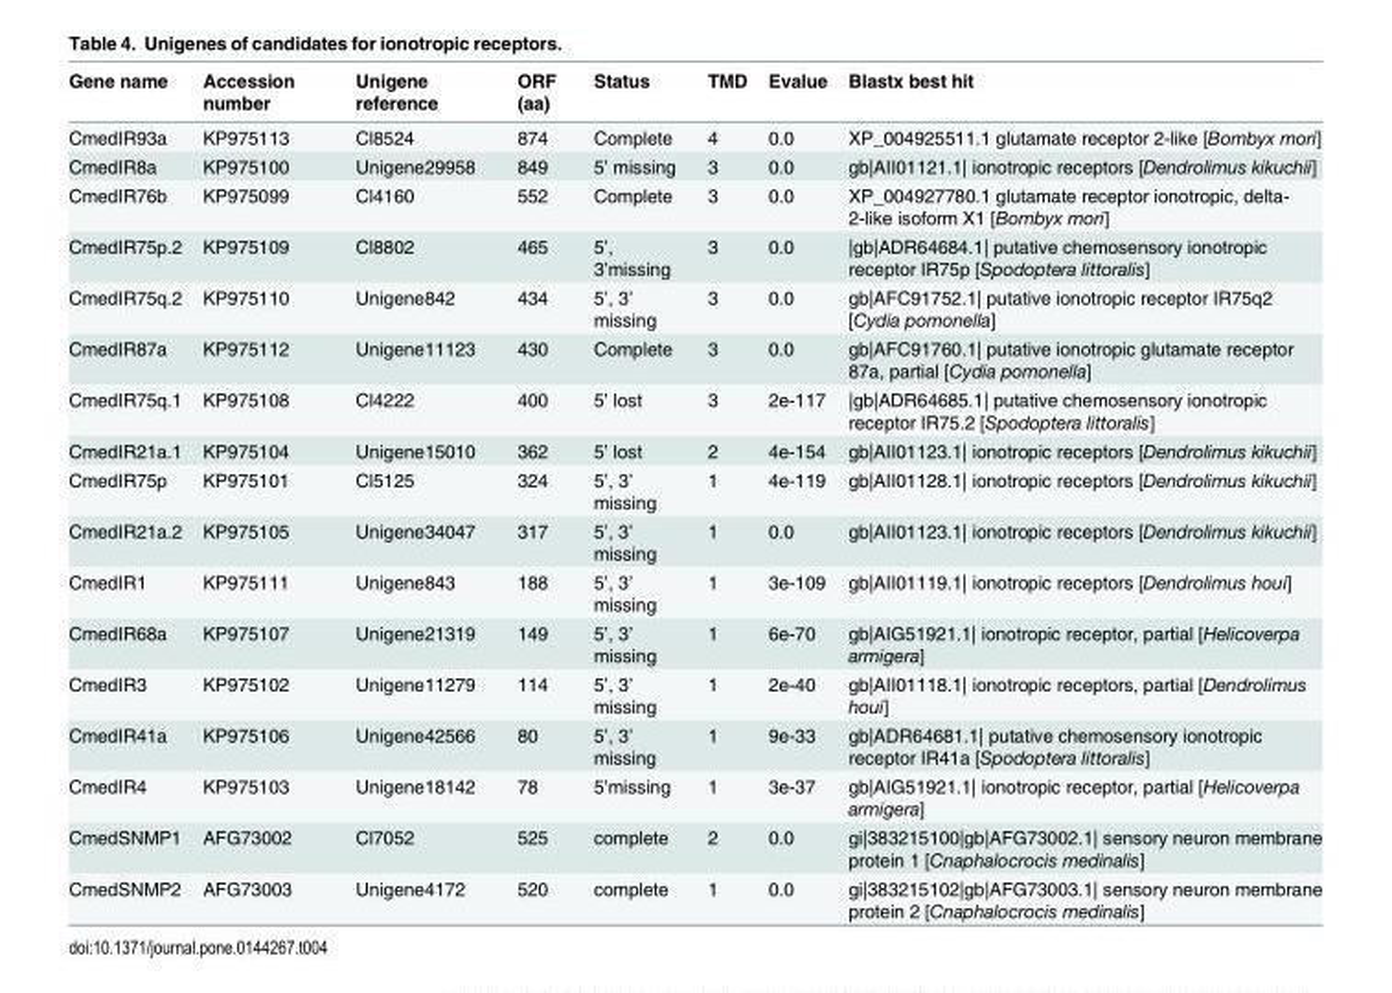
<table><thead><tr><td>Gene name</td><td>Accession number</td><td>Unigene reference</td><td>ORF (aa)</td><td>Status</td><td>TMD</td><td>Evalue</td><td>Blastx best hit</td></tr></thead><tbody><tr><td>CmedIR93a</td><td>KP975113</td><td>Cl8524</td><td>874</td><td>Complete</td><td>4</td><td>0.0</td><td>XP_004925511.1 glutamate receptor 2-like [Bombyx mori]</td></tr><tr><td>CmedIR8a</td><td>KP975100</td><td>Unigene29958</td><td>849</td><td>5’ missing</td><td>3</td><td>0.0</td><td>gb|AII01121.1| ionotropic receptors [Dendrolimus kikuchii]</td></tr><tr><td>CmedIR76b</td><td>KP975099</td><td>Cl4160</td><td>552</td><td>Complete</td><td>3</td><td>0.0</td><td>XP_004927780.1 glutamate receptor ionotropic, delta- 2-like isoform X1 [Bombyx mori]</td></tr><tr><td>CmedIR75p.2</td><td>KP975109</td><td>Cl8802</td><td>465</td><td>5’, 3’missing</td><td>3</td><td>0.0</td><td>|gb|ADR64684.1| putative chemosensory ionotropic receptor IR75p [Spodoptera littoralis]</td></tr><tr><td>CmedIR75q.2</td><td>KP975110</td><td>Unigene842</td><td>434</td><td>5’, 3’ missing</td><td>3</td><td>0.0</td><td>gb|AFC91752.1| putative ionotropic receptor IR75q2 [Cydia pomonella]</td></tr><tr><td>CmedIR87a</td><td>KP975112</td><td>Unigene11123</td><td>430</td><td>Complete</td><td>3</td><td>0.0</td><td>gb|AFC91760.1| putative ionotropic glutamate receptor 87a, partial [Cydia pomonella]</td></tr><tr><td>CmedIR75q.1</td><td>KP975108</td><td>Cl4222</td><td>400</td><td>5’ lost</td><td>3</td><td>2e-117</td><td>|gb|ADR64685.1| putative chemosensory ionotropic receptor IR75.2 [Spodoptera littoralis]</td></tr><tr><td>CmedIR21a.1</td><td>KP975104</td><td>Unigene15010</td><td>362</td><td>5’ lost</td><td>2</td><td>4e-154</td><td>gb|AII01123.1| ionotropic receptors [Dendrolimus kikuchii]</td></tr><tr><td>CmedIR75p</td><td>KP975101</td><td>Cl5125</td><td>324</td><td>5’, 3’ missing</td><td>1</td><td>4e-119</td><td>gb|AII01128.1| ionotropic receptors [Dendrolimus kikuchii]</td></tr><tr><td>CmedIR21a.2</td><td>KP975105</td><td>Unigene34047</td><td>317</td><td>5’, 3’ missing</td><td>1</td><td>0.0</td><td>gb|AII01123.1| ionotropic receptors [Dendrolimus kikuchii]</td></tr><tr><td>CmedIR1</td><td>KP975111</td><td>Unigene843</td><td>188</td><td>5’, 3’ missing</td><td>1</td><td>3e-109</td><td>gb|AII01119.1| ionotropic receptors [Dendrolimus houi]</td></tr><tr><td>CmedIR68a</td><td>KP975107</td><td>Unigene21319</td><td>149</td><td>5’, 3’ missing</td><td>1</td><td>6e-70</td><td>gb|AIG51921.1| ionotropic receptor, partial [Helicoverpa armigera]</td></tr><tr><td>CmedIR3</td><td>KP975102</td><td>Unigene11279</td><td>114</td><td>5’, 3’ missing</td><td>1</td><td>2e-40</td><td>gb|AII01118.1| ionotropic receptors, partial [Dendrolimus houi]</td></tr><tr><td>CmedIR41a</td><td>KP975106</td><td>Unigene42566</td><td>80</td><td>5’, 3’ missing</td><td>1</td><td>9e-33</td><td>gb|ADR64681.1| putative chemosensory ionotropic receptor IR41a [Spodoptera littoralis]</td></tr><tr><td>CmedIR4</td><td>KP975103</td><td>Unigene18142</td><td>78</td><td>5’missing</td><td>1</td><td>3e-37</td><td>gb|AIG51921.1| ionotropic receptor, partial [Helicoverpa armigera]</td></tr><tr><td>CmedSNMP1</td><td>AFG73002</td><td>Cl7052</td><td>525</td><td>complete</td><td>2</td><td>0.0</td><td>gi|383215100|gb|AFG73002.1| sensory neuron membrane protein 1 [Cnaphalocrocis medinalis]</td></tr><tr><td>CmedSNMP2</td><td>AFG73003</td><td>Unigene4172</td><td>520</td><td>complete</td><td>1</td><td>0.0</td><td>gi|383215102|gb|AFG73003.1| sensory neuron membrane protein 2 [Cnaphalocrocis medinalis]</td></tr></tbody></table>